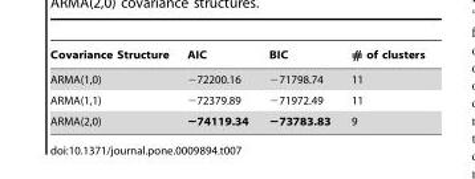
<table><thead><tr><td>Covariance Structure</td><td>AIC</td><td>BIC</td><td># of clusters</td></tr></thead><tbody><tr><td>ARMA(1,0)</td><td>−72200.16</td><td>−71798.74</td><td>11</td></tr><tr><td>ARMA(1,1)</td><td>−72379.89</td><td>−71972.49</td><td>11</td></tr><tr><td>ARMA(2,0)</td><td>−74119.34</td><td>−73783.83</td><td>9</td></tr></tbody></table>